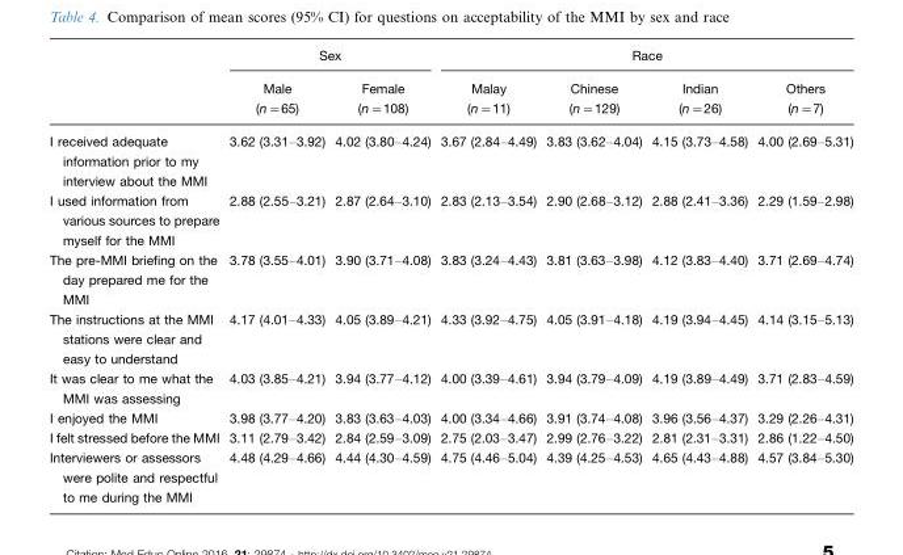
<table><thead><tr><td rowspan="2"></td><td colspan="2">Sex</td><td colspan="4">Race</td></tr><tr><td>Male (n=65)</td><td>Female (n=108)</td><td>Malay (n=11)</td><td>Chinese (n=129)</td><td>Indian (n=26)</td><td>Others (n=7)</td></tr></thead><tbody><tr><td>I received adequate information prior to my interview about the MMI</td><td>3.62 (3.31–3.92)</td><td>4.02 (3.80–4.24)</td><td>3.67 (2.84–4.49)</td><td>3.83 (3.62–4.04)</td><td>4.15 (3.73–4.58)</td><td>4.00 (2.69–5.31)</td></tr><tr><td>I used information from various sources to prepare myself for the MMI</td><td>2.88 (2.55–3.21)</td><td>2.87 (2.64–3.10)</td><td>2.83 (2.13–3.54)</td><td>2.90 (2.68–3.12)</td><td>2.88 (2.41–3.36)</td><td>2.29 (1.59–2.98)</td></tr><tr><td>The pre-MMI briefing on the day prepared me for the MMI</td><td>3.78 (3.55–4.01)</td><td>3.90 (3.71–4.08)</td><td>3.83 (3.24–4.43)</td><td>3.81 (3.63–3.98)</td><td>4.12 (3.83–4.40)</td><td>3.71 (2.69–4.74)</td></tr><tr><td>The instructions at the MMI stations were clear and easy to understand</td><td>4.17 (4.01–4.33)</td><td>4.05 (3.89–4.21)</td><td>4.33 (3.92–4.75)</td><td>4.05 (3.91–4.18)</td><td>4.19 (3.94–4.45)</td><td>4.14 (3.15–5.13)</td></tr><tr><td>It was clear to me what the MMI was assessing</td><td>4.03 (3.85–4.21)</td><td>3.94 (3.77–4.12)</td><td>4.00 (3.39–4.61)</td><td>3.94 (3.79–4.09)</td><td>4.19 (3.89–4.49)</td><td>3.71 (2.83–4.59)</td></tr><tr><td>I enjoyed the MMI</td><td>3.98 (3.77–4.20)</td><td>3.83 (3.63–4.03)</td><td>4.00 (3.34–4.66)</td><td>3.91 (3.74–4.08)</td><td>3.96 (3.56–4.37)</td><td>3.29 (2.26–4.31)</td></tr><tr><td>I felt stressed before the MMI</td><td>3.11 (2.79–3.42)</td><td>2.84 (2.59–3.09)</td><td>2.75 (2.03–3.47)</td><td>2.99 (2.76–3.22)</td><td>2.81 (2.31–3.31)</td><td>2.86 (1.22–4.50)</td></tr><tr><td>Interviewers or assessors were polite and respectful to me during the MMI</td><td>4.48 (4.29–4.66)</td><td>4.44 (4.30–4.59)</td><td>4.75 (4.46–5.04)</td><td>4.39 (4.25–4.53)</td><td>4.65 (4.43–4.88)</td><td>4.57 (3.84–5.30)</td></tr></tbody></table>